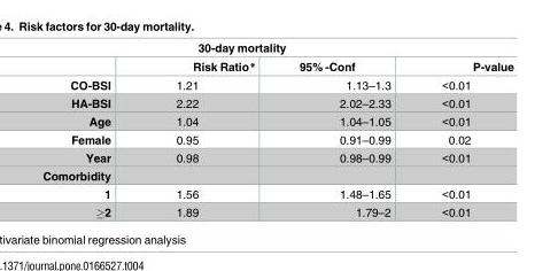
<table><thead><tr><td colspan="4">30-day mortality</td></tr><tr><td></td><td>Risk Ratio*</td><td>95% -Conf</td><td>P-value</td></tr></thead><tbody><tr><td>CO-BSI</td><td>1.21</td><td>1.13–1.3</td><td>&lt;0.01</td></tr><tr><td>HA-BSI</td><td>2.22</td><td>2.02–2.33</td><td>&lt;0.01</td></tr><tr><td>Age</td><td>1.04</td><td>1.04–1.05</td><td>&lt;0.01</td></tr><tr><td>Female</td><td>0.95</td><td>0.91–0.99</td><td>0.02</td></tr><tr><td>Year</td><td>0.98</td><td>0.98–0.99</td><td>&lt;0.01</td></tr><tr><td colspan="4">Comorbidity</td></tr><tr><td>1</td><td>1.56</td><td>1.48–1.65</td><td>&lt;0.01</td></tr><tr><td>≥2</td><td>1.89</td><td>1.79–2</td><td>&lt;0.01</td></tr></tbody></table>